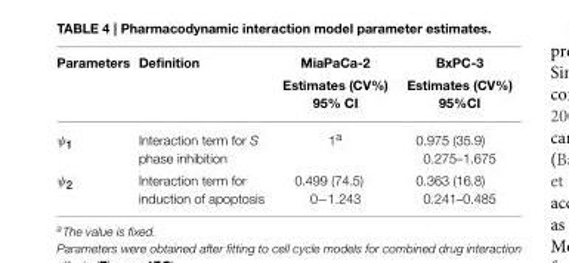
<table><thead><tr><td>Parameters</td><td>Definition</td><td>MiaPaCa-2 Estimates (CV%) 95% CI</td><td>BxPC-3 Estimates (CV%) 95%CI</td></tr></thead><tbody><tr><td>ψ<sub>1</sub></td><td>Interaction term for S phase inhibition</td><td>1<sup>a</sup></td><td>0.975 (35.9) 0.275–1.675</td></tr><tr><td>ψ<sub>2</sub></td><td>Interaction term for induction of apoptosis</td><td>0.499 (74.5) 0−1.243</td><td>0.363 (16.8) 0.241–0.485</td></tr></tbody></table>